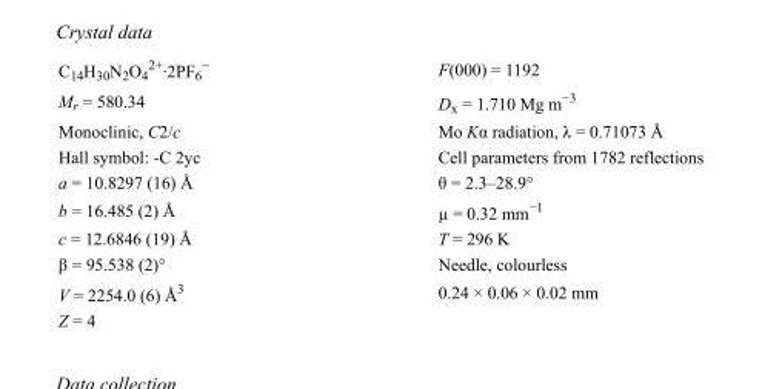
<table><tbody><tr><td>C<sub>14</sub>H<sub>30</sub>N<sub>2</sub>O<sub>4</sub> <sup>2+</sup>·2PF<sub>6</sub> <sup>−</sup></td><td>F(000) = 1192</td></tr><tr><td>M<sub>r</sub> = 580.34</td><td>D<sub>x</sub> = 1.710 Mg m<sup>−3</sup></td></tr><tr><td>Monoclinic, C2/c</td><td>Mo Kα radiation, λ = 0.71073 Å</td></tr><tr><td>Hall symbol: -C 2yc</td><td>Cell parameters from 1782 reflections</td></tr><tr><td>a = 10.8297 (16) Å</td><td>θ = 2.3–28.9°</td></tr><tr><td>b = 16.485 (2) Å</td><td>µ = 0.32 mm<sup>−1</sup></td></tr><tr><td>c = 12.6846 (19) Å</td><td>T = 296 K</td></tr><tr><td>β = 95.538 (2)°</td><td>Needle, colourless</td></tr><tr><td>V = 2254.0 (6) Å<sup>3</sup></td><td>0.24 × 0.06 × 0.02 mm</td></tr><tr><td>Z = 4</td><td></td></tr></tbody></table>